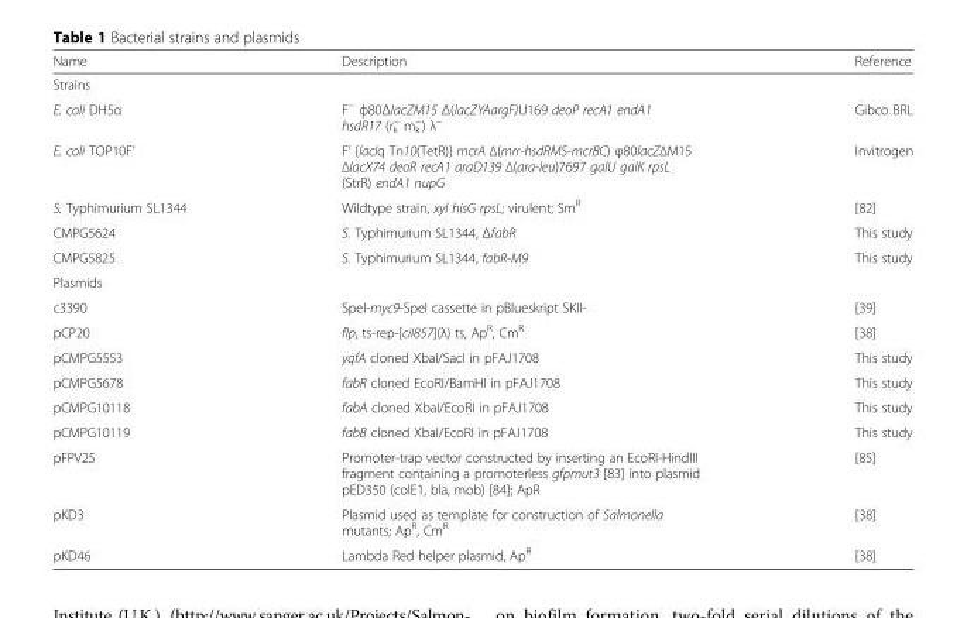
<table><thead><tr><td>Name</td><td>Description</td><td>Reference</td></tr></thead><tbody><tr><td colspan="3">Strains</td></tr><tr><td>E. coli DH5α</td><td>F<sup>−</sup> ϕ80ΔlacZM15 Δ(lacZYAargF)U169 deoP recA1 endA1 hsdR17 (r<sub>k</sub> <sup>−</sup> m<sub>k</sub> <sup>−</sup>) λ<sup>−</sup></td><td>Gibco BRL</td></tr><tr><td>E. coli TOP10F’</td><td>F’ {lacIq Tn10(TetR)} mcrA Δ(mrr-hsdRMS-mcrBC) φ80lacZΔM15 ΔlacX74 deoR recA1 araD139 Δ(ara-leu)7697 galU galK rpsL (StrR) endA1 nupG</td><td>Invitrogen</td></tr><tr><td>S. Typhimurium SL1344</td><td>Wildtype strain, xyl hisG rpsL; virulent; Sm<sup>R</sup></td><td>[82]</td></tr><tr><td>CMPG5624</td><td>S. Typhimurium SL1344, ΔfabR</td><td>This study</td></tr><tr><td>CMPG5825</td><td>S. Typhimurium SL1344, fabR-M9</td><td>This study</td></tr><tr><td colspan="3">Plasmids</td></tr><tr><td>c3390</td><td>SpeI-myc9-SpeI cassette in pBlueskript SKII-</td><td>[39]</td></tr><tr><td>pCP20</td><td>flp, ts-rep-[ciI857](λ) ts, Ap<sup>R</sup>, Cm<sup>R</sup></td><td>[38]</td></tr><tr><td>pCMPG5553</td><td>yqfA cloned XbaI/SacI in pFAJ1708</td><td>This study</td></tr><tr><td>pCMPG5678</td><td>fabR cloned EcoRI/BamHI in pFAJ1708</td><td>This study</td></tr><tr><td>pCMPG10118</td><td>fabA cloned XbaI/EcoRI in pFAJ1708</td><td>This study</td></tr><tr><td>pCMPG10119</td><td>fabB cloned XbaI/EcoRI in pFAJ1708</td><td>This study</td></tr><tr><td>pFPV25</td><td>Promoter-trap vector constructed by inserting an EcoRI-HindIII fragment containing a promoterless gfpmut3 [83] into plasmid pED350 (colE1, bla, mob) [84]; ApR</td><td>[85]</td></tr><tr><td>pKD3</td><td>Plasmid used as template for construction of Salmonella mutants; Ap<sup>R</sup>, Cm<sup>R</sup></td><td>[38]</td></tr><tr><td>pKD46</td><td>Lambda Red helper plasmid, Ap<sup>R</sup></td><td>[38]</td></tr></tbody></table>